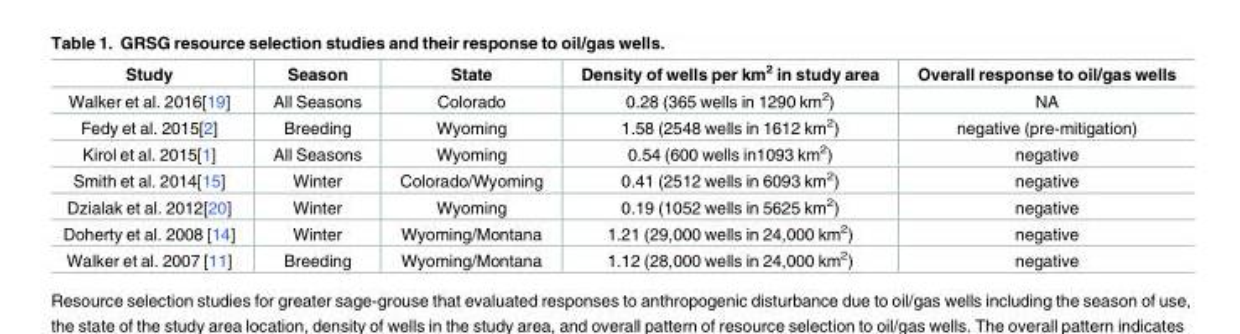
<table><thead><tr><td>Study</td><td>Season</td><td>State</td><td>Density of wells per km<sup>2</sup> in study area</td><td>Overall response to oil/gas wells</td></tr></thead><tbody><tr><td>Walker et al. 2016[19]</td><td>All Seasons</td><td>Colorado</td><td>0.28 (365 wells in 1290 km<sup>2</sup>)</td><td>NA</td></tr><tr><td>Fedy et al. 2015[2]</td><td>Breeding</td><td>Wyoming</td><td>1.58 (2548 wells in 1612 km<sup>2</sup>)</td><td>negative (pre-mitigation)</td></tr><tr><td>Kirol et al. 2015[1]</td><td>All Seasons</td><td>Wyoming</td><td>0.54 (600 wells in1093 km<sup>2</sup>)</td><td>negative</td></tr><tr><td>Smith et al. 2014[15]</td><td>Winter</td><td>Colorado/Wyoming</td><td>0.41 (2512 wells in 6093 km<sup>2</sup>)</td><td>negative</td></tr><tr><td>Dzialak et al. 2012[20]</td><td>Winter</td><td>Wyoming</td><td>0.19 (1052 wells in 5625 km<sup>2</sup>)</td><td>negative</td></tr><tr><td>Doherty et al. 2008 [14]</td><td>Winter</td><td>Wyoming/Montana</td><td>1.21 (29,000 wells in 24,000 km<sup>2</sup>)</td><td>negative</td></tr><tr><td>Walker et al. 2007 [11]</td><td>Breeding</td><td>Wyoming/Montana</td><td>1.12 (28,000 wells in 24,000 km<sup>2</sup>)</td><td>negative</td></tr></tbody></table>